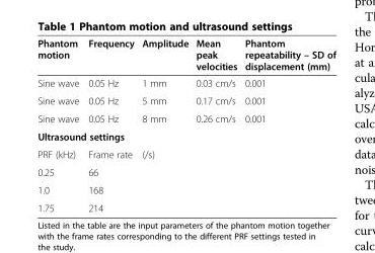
<table><thead><tr><td>Phantom motion</td><td>Frequency</td><td>Amplitude</td><td>Mean peak velocities</td><td>Phantom repeatability – SD of displacement (mm)</td></tr></thead><tbody><tr><td>Sine wave</td><td>0.05 Hz</td><td>1 mm</td><td>0.03 cm/s</td><td>0.001</td></tr><tr><td>Sine wave</td><td>0.05 Hz</td><td>5 mm</td><td>0.17 cm/s</td><td>0.001</td></tr><tr><td>Sine wave</td><td>0.05 Hz</td><td>8 mm</td><td>0.26 cm/s</td><td>0.001</td></tr><tr><td colspan="5">Ultrasound settings</td></tr><tr><td>PRF (kHz)</td><td>Frame rate</td><td>(/s)</td><td></td><td></td></tr><tr><td>0.25</td><td>66</td><td></td><td></td><td></td></tr><tr><td>1.0</td><td>168</td><td></td><td></td><td></td></tr><tr><td>1.75</td><td>214</td><td></td><td></td><td></td></tr></tbody></table>